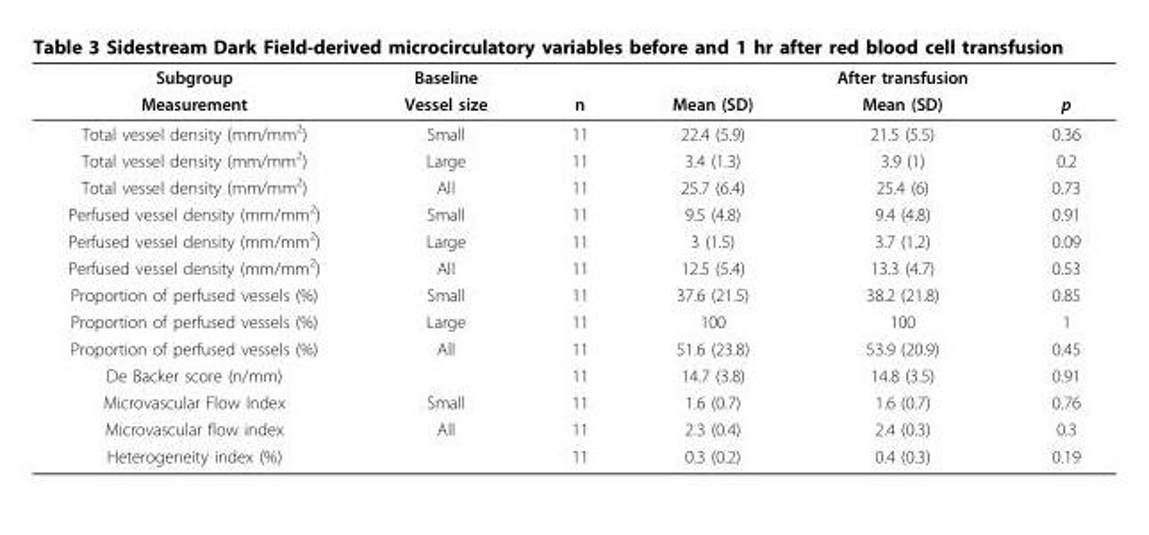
<table><thead><tr><td rowspan="2">Subgroup Measurement</td><td rowspan="2">Baseline Vessel size</td><td rowspan="2">n</td><td rowspan="2">Mean (SD)</td><td rowspan="2">After transfusion Mean (SD)</td><td rowspan="2">p</td></tr><tr></tr></thead><tbody><tr><td>Total vessel density (mm/mm<sup>2</sup>)</td><td>Small</td><td>11</td><td>22.4 (5.9)</td><td>21.5 (5.5)</td><td>0.36</td></tr><tr><td>Total vessel density (mm/mm<sup>2</sup>)</td><td>Large</td><td>11</td><td>3.4 (1.3)</td><td>3.9 (1)</td><td>0.2</td></tr><tr><td>Total vessel density (mm/mm<sup>2</sup>)</td><td>All</td><td>11</td><td>25.7 (6.4)</td><td>25.4 (6)</td><td>0.73</td></tr><tr><td>Perfused vessel density (mm/mm<sup>2</sup>)</td><td>Small</td><td>11</td><td>9.5 (4.8)</td><td>9.4 (4.8)</td><td>0.91</td></tr><tr><td>Perfused vessel density (mm/mm<sup>2</sup>)</td><td>Large</td><td>11</td><td>3 (1.5)</td><td>3.7 (1.2)</td><td>0.09</td></tr><tr><td>Perfused vessel density (mm/mm<sup>2</sup>)</td><td>All</td><td>11</td><td>12.5 (5.4)</td><td>13.3 (4.7)</td><td>0.53</td></tr><tr><td>Proportion of perfused vessels (%)</td><td>Small</td><td>11</td><td>37.6 (21.5)</td><td>38.2 (21.8)</td><td>0.85</td></tr><tr><td>Proportion of perfused vessels (%)</td><td>Large</td><td>11</td><td>100</td><td>100</td><td>1</td></tr><tr><td>Proportion of perfused vessels (%)</td><td>All</td><td>11</td><td>51.6 (23.8)</td><td>53.9 (20.9)</td><td>0.45</td></tr><tr><td>De Backer score (n/mm)</td><td></td><td>11</td><td>14.7 (3.8)</td><td>14.8 (3.5)</td><td>0.91</td></tr><tr><td>Microvascular Flow Index</td><td>Small</td><td>11</td><td>1.6 (0.7)</td><td>1.6 (0.7)</td><td>0.76</td></tr><tr><td>Microvascular flow index</td><td>All</td><td>11</td><td>2.3 (0.4)</td><td>2.4 (0.3)</td><td>0.3</td></tr><tr><td>Heterogeneity index (%)</td><td></td><td>11</td><td>0.3 (0.2)</td><td>0.4 (0.3)</td><td>0.19</td></tr></tbody></table>